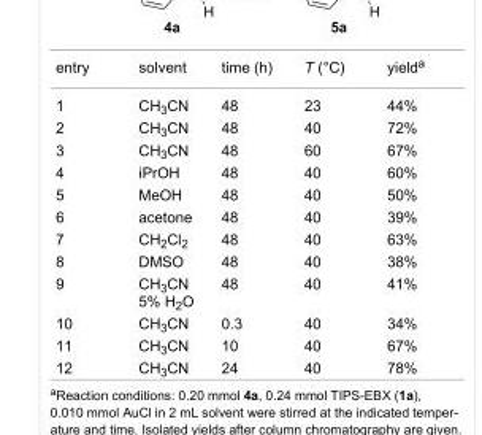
<table><tbody><tr><td>entry</td><td>solvent</td><td>time (h)</td><td>T (°C)</td><td>yield<sup>a</sup></td></tr><tr><td>1</td><td>CH<sub>3</sub>CN</td><td>48</td><td>23</td><td>44%</td></tr><tr><td>2</td><td>CH<sub>3</sub>CN</td><td>48</td><td>40</td><td>72%</td></tr><tr><td>3</td><td>CH<sub>3</sub>CN</td><td>48</td><td>60</td><td>67%</td></tr><tr><td>4</td><td>iPrOH</td><td>48</td><td>40</td><td>60%</td></tr><tr><td>5</td><td>MeOH</td><td>48</td><td>40</td><td>50%</td></tr><tr><td>6</td><td>acetone</td><td>48</td><td>40</td><td>39%</td></tr><tr><td>7</td><td>CH<sub>2</sub>Cl<sub>2</sub></td><td>48</td><td>40</td><td>63%</td></tr><tr><td>8</td><td>DMSO</td><td>48</td><td>40</td><td>38%</td></tr><tr><td>9</td><td>CH<sub>3</sub>CN 5% H<sub>2</sub>O</td><td>48</td><td>40</td><td>41%</td></tr><tr><td>10</td><td>CH<sub>3</sub>CN</td><td>0.3</td><td>40</td><td>34%</td></tr><tr><td>11</td><td>CH<sub>3</sub>CN</td><td>10</td><td>40</td><td>67%</td></tr><tr><td>12</td><td>CH<sub>3</sub>CN</td><td>24</td><td>40</td><td>78%</td></tr></tbody></table>